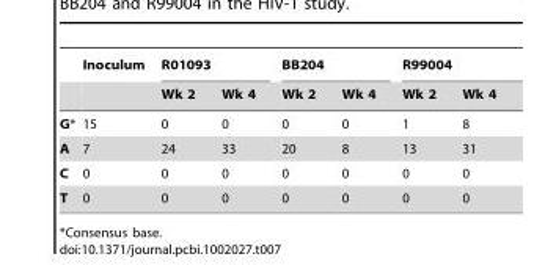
<table><thead><tr><td rowspan="2"></td><td rowspan="2">Inoculum</td><td colspan="2">R01093</td><td colspan="2">BB204</td><td colspan="2">R99004</td></tr><tr><td>Wk 2</td><td>Wk 4</td><td>Wk 2</td><td>Wk 4</td><td>Wk 2</td><td>Wk 4</td></tr></thead><tbody><tr><td>G*</td><td>15</td><td>0</td><td>0</td><td>0</td><td>0</td><td>1</td><td>8</td></tr><tr><td>A</td><td>7</td><td>24</td><td>33</td><td>20</td><td>8</td><td>13</td><td>31</td></tr><tr><td>C</td><td>0</td><td>0</td><td>0</td><td>0</td><td>0</td><td>0</td><td>0</td></tr><tr><td>T</td><td>0</td><td>0</td><td>0</td><td>0</td><td>0</td><td>0</td><td>0</td></tr></tbody></table>